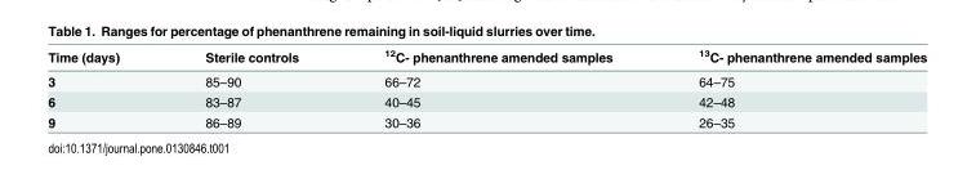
<table><thead><tr><td>Time (days)</td><td>Sterile controls</td><td><sup>12</sup>C- phenanthrene amended samples</td><td><sup>13</sup>C- phenanthrene amended samples</td></tr></thead><tbody><tr><td>3</td><td>85–90</td><td>66–72</td><td>64–75</td></tr><tr><td>6</td><td>83–87</td><td>40–45</td><td>42–48</td></tr><tr><td>9</td><td>86–89</td><td>30–36</td><td>26–35</td></tr></tbody></table>